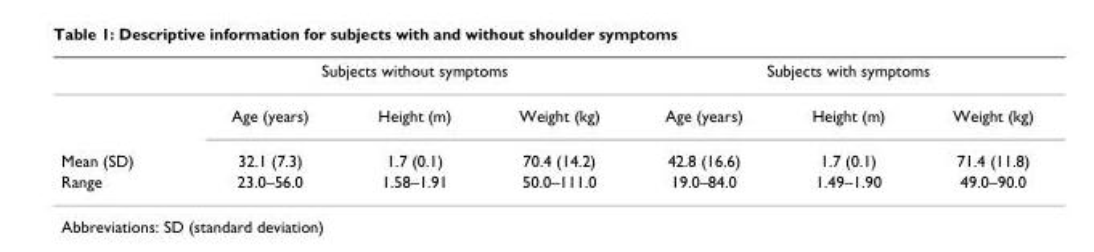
<table><thead><tr><td rowspan="2"></td><td colspan="3">Subjects without symptoms</td><td colspan="3">Subjects with symptoms</td></tr><tr><td>Age (years)</td><td>Height (m)</td><td>Weight (kg)</td><td>Age (years)</td><td>Height (m)</td><td>Weight (kg)</td></tr></thead><tbody><tr><td>Mean (SD)</td><td>32.1 (7.3)</td><td>1.7 (0.1)</td><td>70.4 (14.2)</td><td>42.8 (16.6)</td><td>1.7 (0.1)</td><td>71.4 (11.8)</td></tr><tr><td>Range</td><td>23.0–56.0</td><td>1.58–1.91</td><td>50.0–111.0</td><td>19.0–84.0</td><td>1.49–1.90</td><td>49.0–90.0</td></tr></tbody></table>